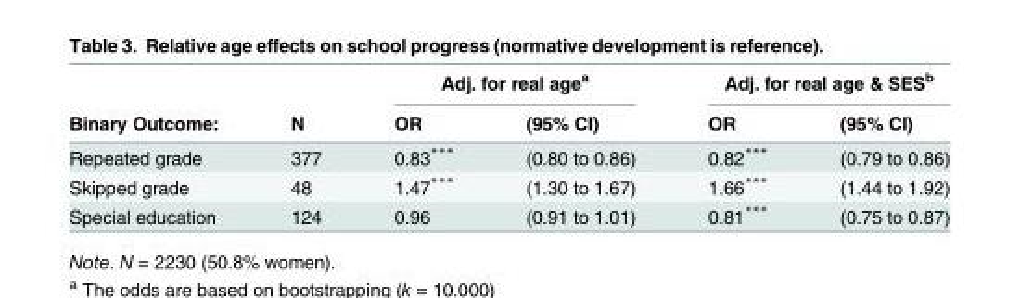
<table><thead><tr><td rowspan="2">Binary Outcome:</td><td rowspan="2">N</td><td colspan="2">Adj. for real age<sup>a</sup></td><td colspan="2">Adj. for real age &amp; SES<sup>b</sup></td></tr><tr><td>OR</td><td>(95% CI)</td><td>OR</td><td>(95% CI)</td></tr></thead><tbody><tr><td>Repeated grade</td><td>377</td><td>0.83***</td><td>(0.80 to 0.86)</td><td>0.82***</td><td>(0.79 to 0.86)</td></tr><tr><td>Skipped grade</td><td>48</td><td>1.47***</td><td>(1.30 to 1.67)</td><td>1.66***</td><td>(1.44 to 1.92)</td></tr><tr><td>Special education</td><td>124</td><td>0.96</td><td>(0.91 to 1.01)</td><td>0.81***</td><td>(0.75 to 0.87)</td></tr></tbody></table>